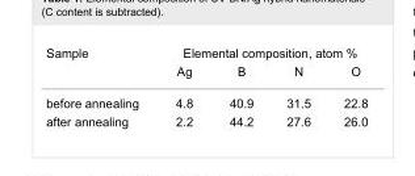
<table><tbody><tr><td rowspan="2">Sample</td><td colspan="4">Elemental composition, atom %</td></tr><tr><td>Ag</td><td>B</td><td>N</td><td>O</td></tr><tr><td>before annealing</td><td>4.8</td><td>40.9</td><td>31.5</td><td>22.8</td></tr><tr><td>after annealing</td><td>2.2</td><td>44.2</td><td>27.6</td><td>26.0</td></tr></tbody></table>